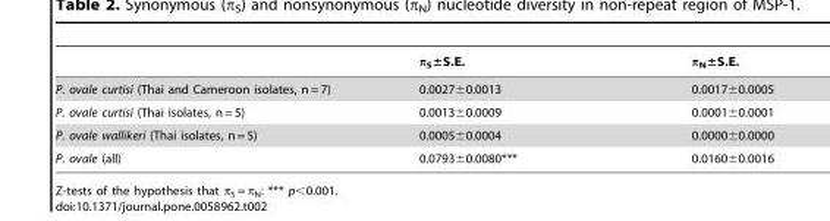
<table><thead><tr><td></td><td>π<sub>S</sub>±S.E.</td><td>π<sub>N</sub>±S.E.</td></tr></thead><tbody><tr><td>P. ovale curtisi (Thai and Cameroon isolates, n = 7)</td><td>0.0027±0.0013</td><td>0.0017±0.0005</td></tr><tr><td>P. ovale curtisi (Thai isolates, n = 5)</td><td>0.0013±0.0009</td><td>0.0001±0.0001</td></tr><tr><td>P. ovale wallikeri (Thai isolates, n = 5)</td><td>0.0005±0.0004</td><td>0.0000±0.0000</td></tr><tr><td>P. ovale (all)</td><td>0.0793±0.0080***</td><td>0.0160±0.0016</td></tr></tbody></table>